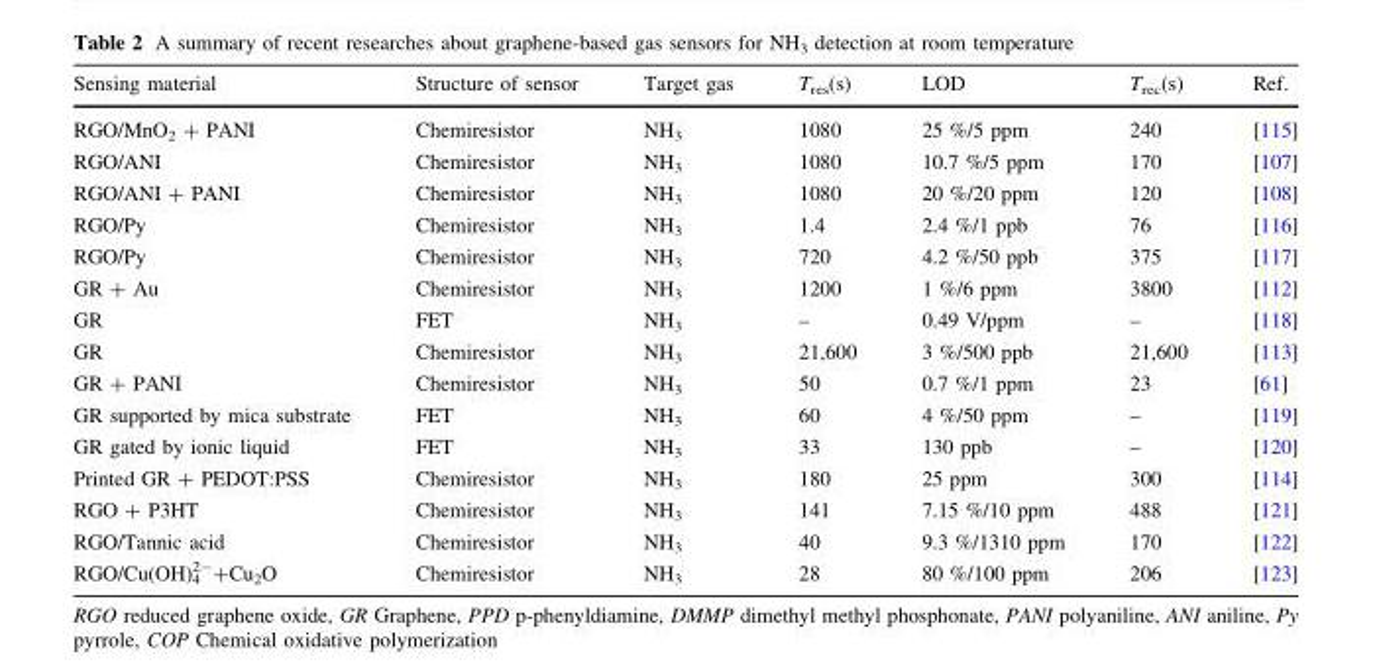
<table><thead><tr><td>Sensing material</td><td>Structure of sensor</td><td>Target gas</td><td>T<sub>res</sub>(s)</td><td>LOD</td><td>T<sub>rec</sub>(s)</td><td>Ref.</td></tr></thead><tbody><tr><td>RGO/MnO<sub>2</sub> + PANI</td><td>Chemiresistor</td><td>NH<sub>3</sub></td><td>1080</td><td>25 %/5 ppm</td><td>240</td><td>[115]</td></tr><tr><td>RGO/ANI</td><td>Chemiresistor</td><td>NH<sub>3</sub></td><td>1080</td><td>10.7 %/5 ppm</td><td>170</td><td>[107]</td></tr><tr><td>RGO/ANI + PANI</td><td>Chemiresistor</td><td>NH<sub>3</sub></td><td>1080</td><td>20 %/20 ppm</td><td>120</td><td>[108]</td></tr><tr><td>RGO/Py</td><td>Chemiresistor</td><td>NH<sub>3</sub></td><td>1.4</td><td>2.4 %/1 ppb</td><td>76</td><td>[116]</td></tr><tr><td>RGO/Py</td><td>Chemiresistor</td><td>NH<sub>3</sub></td><td>720</td><td>4.2 %/50 ppb</td><td>375</td><td>[117]</td></tr><tr><td>GR + Au</td><td>Chemiresistor</td><td>NH<sub>3</sub></td><td>1200</td><td>1 %/6 ppm</td><td>3800</td><td>[112]</td></tr><tr><td>GR</td><td>FET</td><td>NH<sub>3</sub></td><td>–</td><td>0.49 V/ppm</td><td>–</td><td>[118]</td></tr><tr><td>GR</td><td>Chemiresistor</td><td>NH<sub>3</sub></td><td>21,600</td><td>3 %/500 ppb</td><td>21,600</td><td>[113]</td></tr><tr><td>GR + PANI</td><td>Chemiresistor</td><td>NH<sub>3</sub></td><td>50</td><td>0.7 %/1 ppm</td><td>23</td><td>[61]</td></tr><tr><td>GR supported by mica substrate</td><td>FET</td><td>NH<sub>3</sub></td><td>60</td><td>4 %/50 ppm</td><td>–</td><td>[119]</td></tr><tr><td>GR gated by ionic liquid</td><td>FET</td><td>NH<sub>3</sub></td><td>33</td><td>130 ppb</td><td>–</td><td>[120]</td></tr><tr><td>Printed GR + PEDOT:PSS</td><td>Chemiresistor</td><td>NH<sub>3</sub></td><td>180</td><td>25 ppm</td><td>300</td><td>[114]</td></tr><tr><td>RGO + P3HT</td><td>Chemiresistor</td><td>NH<sub>3</sub></td><td>141</td><td>7.15 %/10 ppm</td><td>488</td><td>[121]</td></tr><tr><td>RGO/Tannic acid</td><td>Chemiresistor</td><td>NH<sub>3</sub></td><td>40</td><td>9.3 %/1310 ppm</td><td>170</td><td>[122]</td></tr><tr><td>RGO/Cu(OH)<sub>4</sub> <sup>2-</sup>+Cu<sub>2</sub>O</td><td>Chemiresistor</td><td>NH<sub>3</sub></td><td>28</td><td>80 %/100 ppm</td><td>206</td><td>[123]</td></tr></tbody></table>